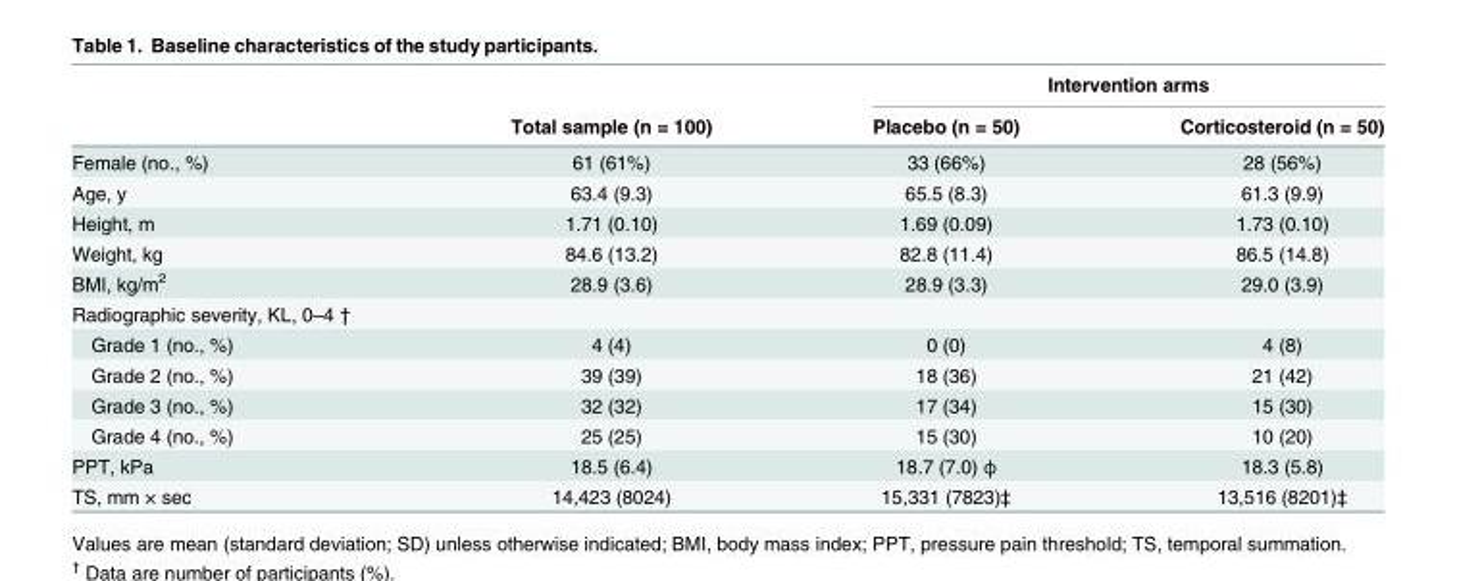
<table><thead><tr><td rowspan="2"></td><td rowspan="2">Total sample (n = 100)</td><td colspan="2">Intervention arms</td></tr><tr><td>Placebo (n = 50)</td><td>Corticosteroid (n = 50)</td></tr></thead><tbody><tr><td>Female (no., %)</td><td>61 (61%)</td><td>33 (66%)</td><td>28 (56%)</td></tr><tr><td>Age, y</td><td>63.4 (9.3)</td><td>65.5 (8.3)</td><td>61.3 (9.9)</td></tr><tr><td>Height, m</td><td>1.71 (0.10)</td><td>1.69 (0.09)</td><td>1.73 (0.10)</td></tr><tr><td>Weight, kg</td><td>84.6 (13.2)</td><td>82.8 (11.4)</td><td>86.5 (14.8)</td></tr><tr><td>BMI, kg/m<sup>2</sup></td><td>28.9 (3.6)</td><td>28.9 (3.3)</td><td>29.0 (3.9)</td></tr><tr><td colspan="4">Radiographic severity, KL, 0–4 †</td></tr><tr><td>Grade 1 (no., %)</td><td>4 (4)</td><td>0 (0)</td><td>4 (8)</td></tr><tr><td>Grade 2 (no., %)</td><td>39 (39)</td><td>18 (36)</td><td>21 (42)</td></tr><tr><td>Grade 3 (no., %)</td><td>32 (32)</td><td>17 (34)</td><td>15 (30)</td></tr><tr><td>Grade 4 (no., %)</td><td>25 (25)</td><td>15 (30)</td><td>10 (20)</td></tr><tr><td>PPT, kPa</td><td>18.5 (6.4)</td><td>18.7 (7.0) ф</td><td>18.3 (5.8)</td></tr><tr><td>TS, mm × sec</td><td>14,423 (8024)</td><td>15,331 (7823)‡</td><td>13,516 (8201)‡</td></tr></tbody></table>